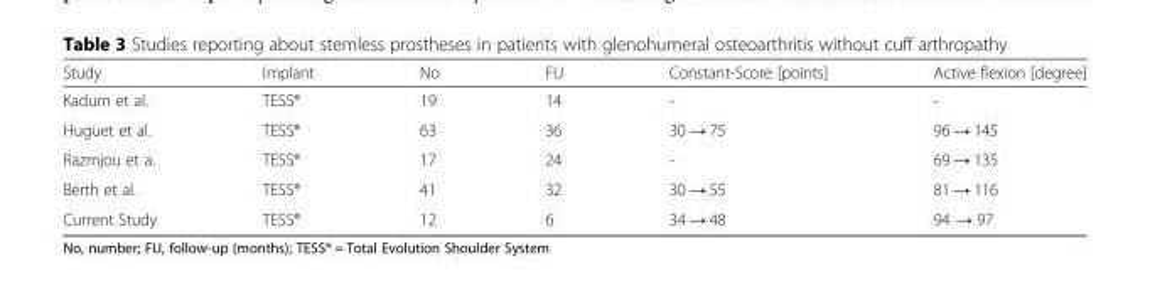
<table><thead><tr><td>Study</td><td>Implant</td><td>No</td><td>FU</td><td>Constant-Score [points]</td><td>Active flexion [degree]</td></tr></thead><tbody><tr><td>Kadum et al.</td><td>TESS®</td><td>19</td><td>14</td><td>-</td><td>-</td></tr><tr><td>Huguet et al.</td><td>TESS®</td><td>63</td><td>36</td><td>30 → 75</td><td>96 → 145</td></tr><tr><td>Razmjou et a.</td><td>TESS®</td><td>17</td><td>24</td><td>-</td><td>69 → 135</td></tr><tr><td>Berth et al.</td><td>TESS®</td><td>41</td><td>32</td><td>30 → 55</td><td>81 → 116</td></tr><tr><td>Current Study</td><td>TESS®</td><td>12</td><td>6</td><td>34 → 48</td><td>94 → 97</td></tr></tbody></table>